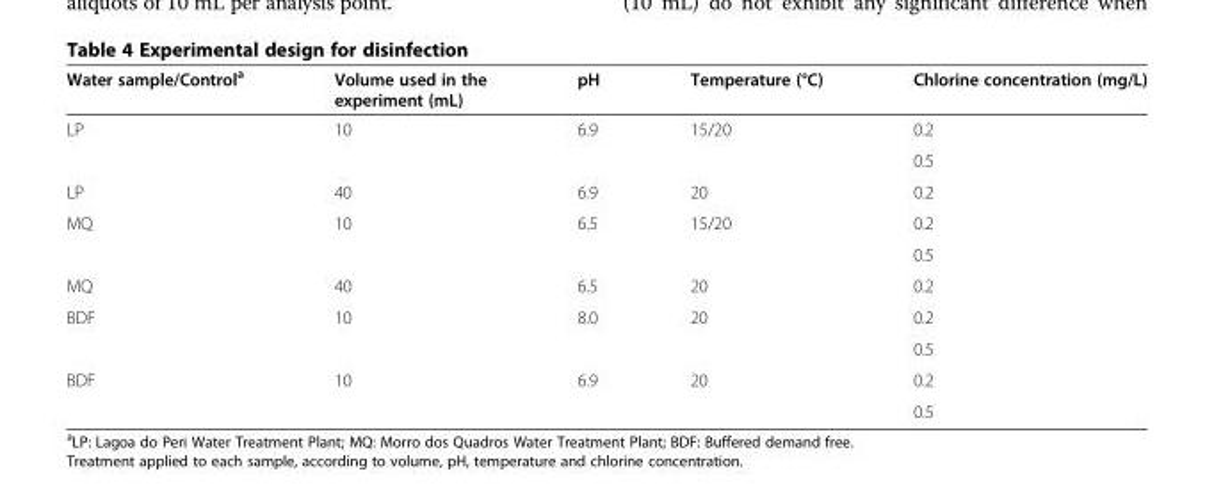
<table><thead><tr><td>Water sample/Control<sup>a</sup></td><td>Volume used in the experiment (mL)</td><td>pH</td><td>Temperature (°C)</td><td>Chlorine concentration (mg/L)</td></tr></thead><tbody><tr><td rowspan="2">LP</td><td rowspan="2">10</td><td rowspan="2">6.9</td><td rowspan="2">15/20</td><td>0.2</td></tr><tr><td>0.5</td></tr><tr><td>LP</td><td>40</td><td>6.9</td><td>20</td><td>0.2</td></tr><tr><td rowspan="2">MQ</td><td rowspan="2">10</td><td rowspan="2">6.5</td><td rowspan="2">15/20</td><td>0.2</td></tr><tr><td>0.5</td></tr><tr><td>MQ</td><td>40</td><td>6.5</td><td>20</td><td>0.2</td></tr><tr><td rowspan="2">BDF</td><td rowspan="2">10</td><td rowspan="2">8.0</td><td rowspan="2">20</td><td>0.2</td></tr><tr><td>0.5</td></tr><tr><td rowspan="2">BDF</td><td rowspan="2">10</td><td rowspan="2">6.9</td><td rowspan="2">20</td><td>0.2</td></tr><tr><td>0.5</td></tr></tbody></table>